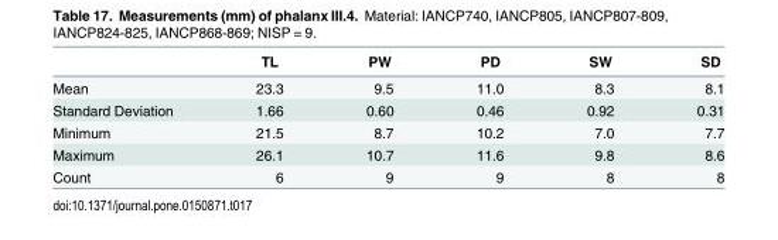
<table><thead><tr><td></td><td>TL</td><td>PW</td><td>PD</td><td>SW</td><td>SD</td></tr></thead><tbody><tr><td>Mean</td><td>23.3</td><td>9.5</td><td>11.0</td><td>8.3</td><td>8.1</td></tr><tr><td>Standard Deviation</td><td>1.66</td><td>0.60</td><td>0.46</td><td>0.92</td><td>0.31</td></tr><tr><td>Minimum</td><td>21.5</td><td>8.7</td><td>10.2</td><td>7.0</td><td>7.7</td></tr><tr><td>Maximum</td><td>26.1</td><td>10.7</td><td>11.6</td><td>9.8</td><td>8.6</td></tr><tr><td>Count</td><td>6</td><td>9</td><td>9</td><td>8</td><td>8</td></tr></tbody></table>